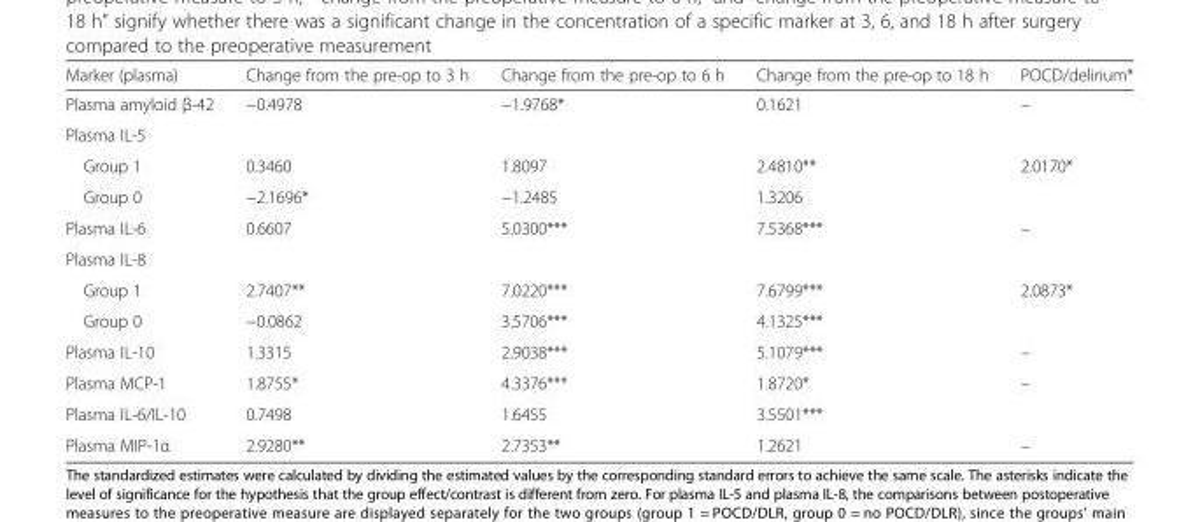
<table><thead><tr><td>Marker (plasma)</td><td>Change from the pre-op to 3 h</td><td>Change from the pre-op to 6 h</td><td>Change from the pre-op to 18 h</td><td>POCD/delirium*</td></tr></thead><tbody><tr><td>Plasma amyloid β-42</td><td>−0.4978</td><td>−1.9768*</td><td>0.1621</td><td>–</td></tr><tr><td colspan="5">Plasma IL-5</td></tr><tr><td>Group 1</td><td>0.3460</td><td>1.8097</td><td>2.4810**</td><td rowspan="2">2.0170*</td></tr><tr><td>Group 0</td><td>−2.1696*</td><td>−1.2485</td><td>1.3206</td></tr><tr><td>Plasma IL-6</td><td>0.6607</td><td>5.0300***</td><td>7.5368***</td><td>–</td></tr><tr><td colspan="5">Plasma IL-8</td></tr><tr><td>Group 1</td><td>2.7407**</td><td>7.0220***</td><td>7.6799***</td><td rowspan="2">2.0873*</td></tr><tr><td>Group 0</td><td>−0.0862</td><td>3.5706***</td><td>4.1325***</td></tr><tr><td>Plasma IL-10</td><td>1.3315</td><td>2.9038***</td><td>5.1079***</td><td>–</td></tr><tr><td>Plasma MCP-1</td><td>1.8755*</td><td>4.3376***</td><td>1.8720*</td><td>–</td></tr><tr><td>Plasma IL-6/IL-10</td><td>0.7498</td><td>1.6455</td><td>3.5501***</td><td></td></tr><tr><td>Plasma MIP-1α</td><td>2.9280**</td><td>2.7353**</td><td>1.2621</td><td>–</td></tr></tbody></table>